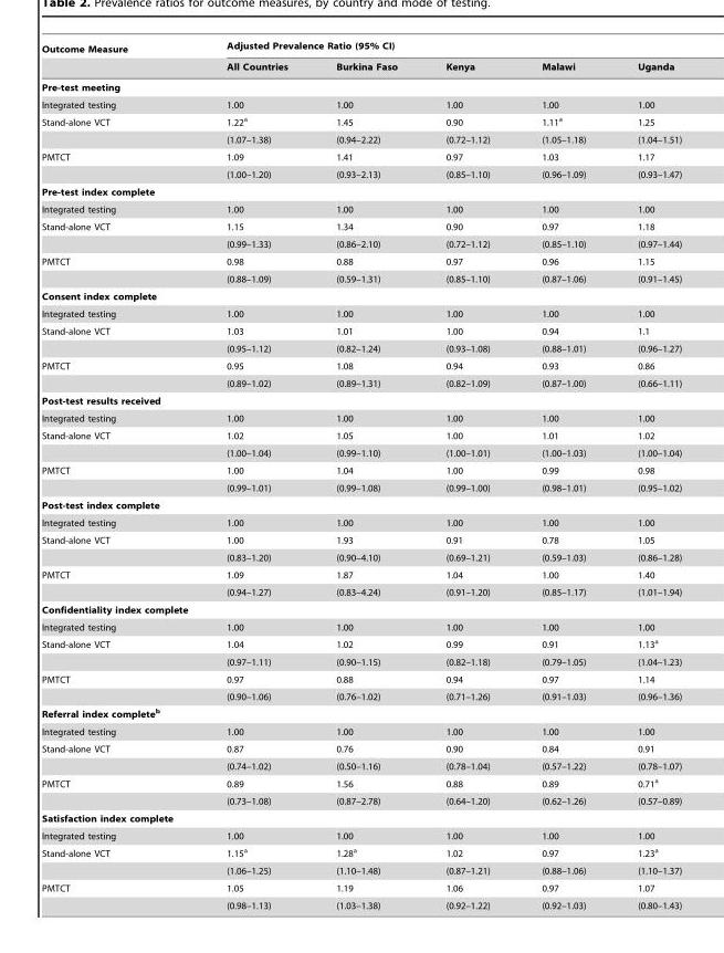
<table><thead><tr><td rowspan="2">Outcome Measure</td><td colspan="5">Adjusted Prevalence Ratio (95% CI)</td></tr><tr><td>All Countries</td><td>Burkina Faso</td><td>Kenya</td><td>Malawi</td><td>Uganda</td></tr></thead><tbody><tr><td colspan="6">Pre-test meeting</td></tr><tr><td>Integrated testing</td><td>1.00</td><td>1.00</td><td>1.00</td><td>1.00</td><td>1.00</td></tr><tr><td rowspan="2">Stand-alone VCT</td><td>1.22<sup>a</sup></td><td>1.45</td><td>0.90</td><td>1.11<sup>a</sup></td><td>1.25</td></tr><tr><td>(1.07–1.38)</td><td>(0.94–2.22)</td><td>(0.72–1.12)</td><td>(1.05–1.18)</td><td>(1.04–1.51)</td></tr><tr><td rowspan="2">PMTCT</td><td>1.09</td><td>1.41</td><td>0.97</td><td>1.03</td><td>1.17</td></tr><tr><td>(1.00–1.20)</td><td>(0.93–2.13)</td><td>(0.85–1.10)</td><td>(0.96–1.09)</td><td>(0.93–1.47)</td></tr><tr><td colspan="6">Pre-test index complete</td></tr><tr><td>Integrated testing</td><td>1.00</td><td>1.00</td><td>1.00</td><td>1.00</td><td>1.00</td></tr><tr><td rowspan="2">Stand-alone VCT</td><td>1.15</td><td>1.34</td><td>0.90</td><td>0.97</td><td>1.18</td></tr><tr><td>(0.99–1.33)</td><td>(0.86–2.10)</td><td>(0.72–1.12)</td><td>(0.85–1.10)</td><td>(0.97–1.44)</td></tr><tr><td rowspan="2">PMTCT</td><td>0.98</td><td>0.88</td><td>0.97</td><td>0.96</td><td>1.15</td></tr><tr><td>(0.88–1.09)</td><td>(0.59–1.31)</td><td>(0.85–1.10)</td><td>(0.87–1.06)</td><td>(0.91–1.45)</td></tr><tr><td colspan="6">Consent index complete</td></tr><tr><td>Integrated testing</td><td>1.00</td><td>1.00</td><td>1.00</td><td>1.00</td><td>1.00</td></tr><tr><td rowspan="2">Stand-alone VCT</td><td>1.03</td><td>1.01</td><td>1.00</td><td>0.94</td><td>1.1</td></tr><tr><td>(0.95–1.12)</td><td>(0.82–1.24)</td><td>(0.93–1.08)</td><td>(0.88–1.01)</td><td>(0.96–1.27)</td></tr><tr><td rowspan="2">PMTCT</td><td>0.95</td><td>1.08</td><td>0.94</td><td>0.93</td><td>0.86</td></tr><tr><td>(0.89–1.02)</td><td>(0.89–1.31)</td><td>(0.82–1.09)</td><td>(0.87–1.00)</td><td>(0.66–1.11)</td></tr><tr><td colspan="6">Post-test results received</td></tr><tr><td>Integrated testing</td><td>1.00</td><td>1.00</td><td>1.00</td><td>1.00</td><td>1.00</td></tr><tr><td rowspan="2">Stand-alone VCT</td><td>1.02</td><td>1.05</td><td>1.00</td><td>1.01</td><td>1.02</td></tr><tr><td>(1.00–1.04)</td><td>(0.99–1.10)</td><td>(1.00–1.01)</td><td>(1.00–1.03)</td><td>(1.00–1.04)</td></tr><tr><td rowspan="2">PMTCT</td><td>1.00</td><td>1.04</td><td>1.00</td><td>0.99</td><td>0.98</td></tr><tr><td>(0.99–1.01)</td><td>(0.99–1.08)</td><td>(0.99–1.00)</td><td>(0.98–1.01)</td><td>(0.95–1.02)</td></tr><tr><td colspan="6">Post-test index complete</td></tr><tr><td>Integrated testing</td><td>1.00</td><td>1.00</td><td>1.00</td><td>1.00</td><td>1.00</td></tr><tr><td rowspan="2">Stand-alone VCT</td><td>1.00</td><td>1.93</td><td>0.91</td><td>0.78</td><td>1.05</td></tr><tr><td>(0.83–1.20)</td><td>(0.90–4.10)</td><td>(0.69–1.21)</td><td>(0.59–1.03)</td><td>(0.86–1.28)</td></tr><tr><td rowspan="2">PMTCT</td><td>1.09</td><td>1.87</td><td>1.04</td><td>1.00</td><td>1.40</td></tr><tr><td>(0.94–1.27)</td><td>(0.83–4.24)</td><td>(0.91–1.20)</td><td>(0.85–1.17)</td><td>(1.01–1.94)</td></tr><tr><td colspan="6">Confidentiality index complete</td></tr><tr><td>Integrated testing</td><td>1.00</td><td>1.00</td><td>1.00</td><td>1.00</td><td>1.00</td></tr><tr><td rowspan="2">Stand-alone VCT</td><td>1.04</td><td>1.02</td><td>0.99</td><td>0.91</td><td>1.13<sup>a</sup></td></tr><tr><td>(0.97–1.11)</td><td>(0.90–1.15)</td><td>(0.82–1.18)</td><td>(0.79–1.05)</td><td>(1.04–1.23)</td></tr><tr><td rowspan="2">PMTCT</td><td>0.97</td><td>0.88</td><td>0.94</td><td>0.97</td><td>1.14</td></tr><tr><td>(0.90–1.06)</td><td>(0.76–1.02)</td><td>(0.71–1.26)</td><td>(0.91–1.03)</td><td>(0.96–1.36)</td></tr><tr><td colspan="6">Referral index completeb</td></tr><tr><td>Integrated testing</td><td>1.00</td><td>1.00</td><td>1.00</td><td>1.00</td><td>1.00</td></tr><tr><td rowspan="2">Stand-alone VCT</td><td>0.87</td><td>0.76</td><td>0.90</td><td>0.84</td><td>0.91</td></tr><tr><td>(0.74–1.02)</td><td>(0.50–1.16)</td><td>(0.78–1.04)</td><td>(0.57–1.22)</td><td>(0.78–1.07)</td></tr><tr><td rowspan="2">PMTCT</td><td>0.89</td><td>1.56</td><td>0.88</td><td>0.89</td><td>0.71<sup>a</sup></td></tr><tr><td>(0.73–1.08)</td><td>(0.87–2.78)</td><td>(0.64–1.20)</td><td>(0.62–1.26)</td><td>(0.57–0.89)</td></tr><tr><td colspan="6">Satisfaction index complete</td></tr><tr><td>Integrated testing</td><td>1.00</td><td>1.00</td><td>1.00</td><td>1.00</td><td>1.00</td></tr><tr><td rowspan="2">Stand-alone VCT</td><td>1.15<sup>a</sup></td><td>1.28<sup>a</sup></td><td>1.02</td><td>0.97</td><td>1.23<sup>a</sup></td></tr><tr><td>(1.06–1.25)</td><td>(1.10–1.48)</td><td>(0.87–1.21)</td><td>(0.88–1.06)</td><td>(1.10–1.37)</td></tr><tr><td rowspan="2">PMTCT</td><td>1.05</td><td>1.19</td><td>1.06</td><td>0.97</td><td>1.07</td></tr><tr><td>(0.98–1.13)</td><td>(1.03–1.38)</td><td>(0.92–1.22)</td><td>(0.92–1.03)</td><td>(0.80–1.43)</td></tr></tbody></table>